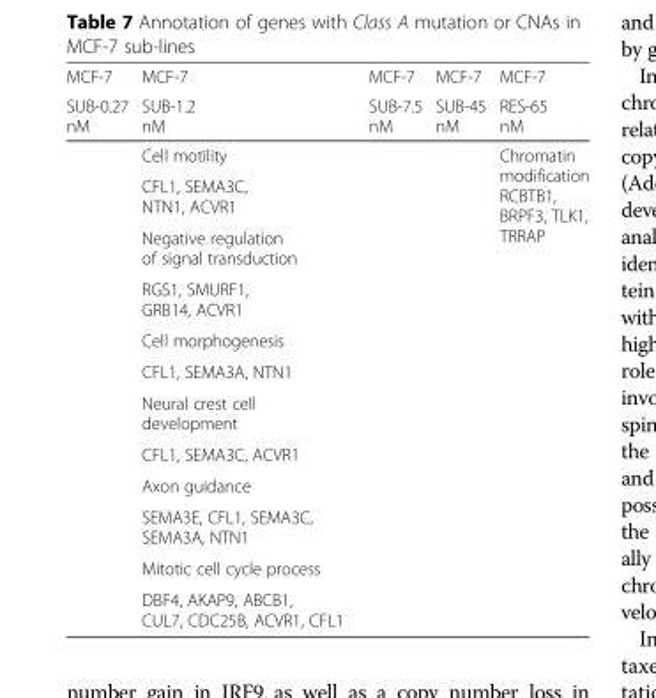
<table><thead><tr><td rowspan="2">MCF-7 SUB-0.27 nM</td><td rowspan="2">MCF-7 SUB-1.2 nM</td><td rowspan="2">MCF-7 SUB-7.5 nM</td><td rowspan="2">MCF-7 SUB-45 nM</td><td rowspan="2">MCF-7 RES-65 nM</td></tr><tr></tr></thead><tbody><tr><td rowspan="12"></td><td>Cell motility</td><td rowspan="12"></td><td rowspan="12"></td><td rowspan="12">Chromatin modification RCBTB1, BRPF3, TLK1, TRRAP</td></tr><tr><td>CFL1, SEMA3C, NTN1, ACVR1</td></tr><tr><td>Negative regulation of signal transduction</td></tr><tr><td>RGS1, SMURF1, GRB14, ACVR1</td></tr><tr><td>Cell morphogenesis</td></tr><tr><td>CFL1, SEMA3A, NTN1</td></tr><tr><td>Neural crest cell development</td></tr><tr><td>CFL1, SEMA3C, ACVR1</td></tr><tr><td>Axon guidance</td></tr><tr><td>SEMA3E, CFL1, SEMA3C, SEMA3A, NTN1</td></tr><tr><td>Mitotic cell cycle process</td></tr><tr><td>DBF4, AKAP9, ABCB1, CUL7, CDC25B, ACVR1, CFL1</td></tr></tbody></table>